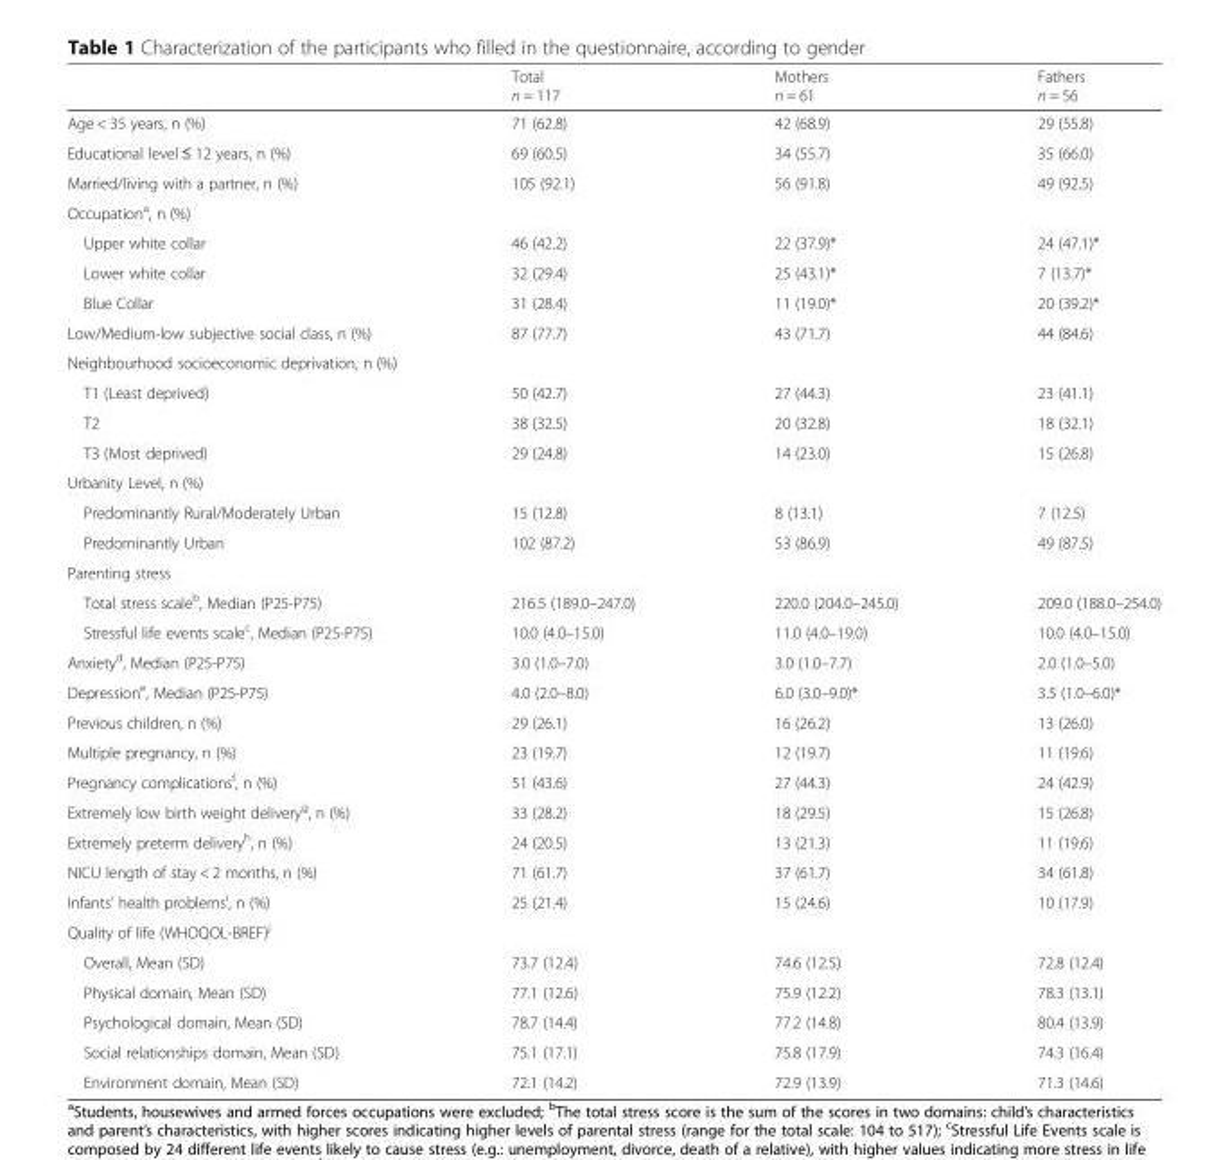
<table><thead><tr><td></td><td>Total n = 117</td><td>Mothers n = 61</td><td>Fathers n = 56</td></tr></thead><tbody><tr><td>Age &lt; 35 years, n (%)</td><td>71 (62.8)</td><td>42 (68.9)</td><td>29 (55.8)</td></tr><tr><td>Educational level ≤ 12 years, n (%)</td><td>69 (60.5)</td><td>34 (55.7)</td><td>35 (66.0)</td></tr><tr><td>Married/living with a partner, n (%)</td><td>105 (92.1)</td><td>56 (91.8)</td><td>49 (92.5)</td></tr><tr><td colspan="4">Occupation<sup>a</sup>, n (%)</td></tr><tr><td>Upper white collar</td><td>46 (42.2)</td><td>22 (37.9)*</td><td>24 (47.1)*</td></tr><tr><td>Lower white collar</td><td>32 (29.4)</td><td>25 (43.1)*</td><td>7 (13.7)*</td></tr><tr><td>Blue Collar</td><td>31 (28.4)</td><td>11 (19.0)*</td><td>20 (39.2)*</td></tr><tr><td>Low/Medium-low subjective social class, n (%)</td><td>87 (77.7)</td><td>43 (71.7)</td><td>44 (84.6)</td></tr><tr><td colspan="4">Neighbourhood socioeconomic deprivation, n (%)</td></tr><tr><td>T1 (Least deprived)</td><td>50 (42.7)</td><td>27 (44.3)</td><td>23 (41.1)</td></tr><tr><td>T2</td><td>38 (32.5)</td><td>20 (32.8)</td><td>18 (32.1)</td></tr><tr><td>T3 (Most deprived)</td><td>29 (24.8)</td><td>14 (23.0)</td><td>15 (26.8)</td></tr><tr><td colspan="4">Urbanity Level, n (%)</td></tr><tr><td>Predominantly Rural/Moderately Urban</td><td>15 (12.8)</td><td>8 (13.1)</td><td>7 (12.5)</td></tr><tr><td>Predominantly Urban</td><td>102 (87.2)</td><td>53 (86.9)</td><td>49 (87.5)</td></tr><tr><td colspan="4">Parenting stress</td></tr><tr><td>Total stress scale<sup>b</sup>, Median (P25-P75)</td><td>216.5 (189.0–247.0)</td><td>220.0 (204.0–245.0)</td><td>209.0 (188.0–254.0)</td></tr><tr><td>Stressful life events scale<sup>c</sup>, Median (P25-P75)</td><td>10.0 (4.0–15.0)</td><td>11.0 (4.0–19.0)</td><td>10.0 (4.0–15.0)</td></tr><tr><td>Anxiety<sup>d</sup>, Median (P25-P75)</td><td>3.0 (1.0–7.0)</td><td>3.0 (1.0–7.7)</td><td>2.0 (1.0–5.0)</td></tr><tr><td>Depression<sup>e</sup>, Median (P25-P75)</td><td>4.0 (2.0–8.0)</td><td>6.0 (3.0–9.0)*</td><td>3.5 (1.0–6.0)*</td></tr><tr><td>Previous children, n (%)</td><td>29 (26.1)</td><td>16 (26.2)</td><td>13 (26.0)</td></tr><tr><td>Multiple pregnancy, n (%)</td><td>23 (19.7)</td><td>12 (19.7)</td><td>11 (19.6)</td></tr><tr><td>Pregnancy complications<sup>f</sup>, n (%)</td><td>51 (43.6)</td><td>27 (44.3)</td><td>24 (42.9)</td></tr><tr><td>Extremely low birth weight delivery<sup>g</sup>, n (%)</td><td>33 (28.2)</td><td>18 (29.5)</td><td>15 (26.8)</td></tr><tr><td>Extremely preterm delivery<sup>h</sup>, n (%)</td><td>24 (20.5)</td><td>13 (21.3)</td><td>11 (19.6)</td></tr><tr><td>NICU length of stay &lt; 2 months, n (%)</td><td>71 (61.7)</td><td>37 (61.7)</td><td>34 (61.8)</td></tr><tr><td>Infants’ health problems<sup>i</sup>, n (%)</td><td>25 (21.4)</td><td>15 (24.6)</td><td>10 (17.9)</td></tr><tr><td colspan="4">Quality of life (WHOQOL-BREF)<sup>j</sup></td></tr><tr><td>Overall, Mean (SD)</td><td>73.7 (12.4)</td><td>74.6 (12.5)</td><td>72.8 (12.4)</td></tr><tr><td>Physical domain, Mean (SD)</td><td>77.1 (12.6)</td><td>75.9 (12.2)</td><td>78.3 (13.1)</td></tr><tr><td>Psychological domain, Mean (SD)</td><td>78.7 (14.4)</td><td>77.2 (14.8)</td><td>80.4 (13.9)</td></tr><tr><td>Social relationships domain, Mean (SD)</td><td>75.1 (17.1)</td><td>75.8 (17.9)</td><td>74.3 (16.4)</td></tr><tr><td>Environment domain, Mean (SD)</td><td>72.1 (14.2)</td><td>72.9 (13.9)</td><td>71.3 (14.6)</td></tr></tbody></table>